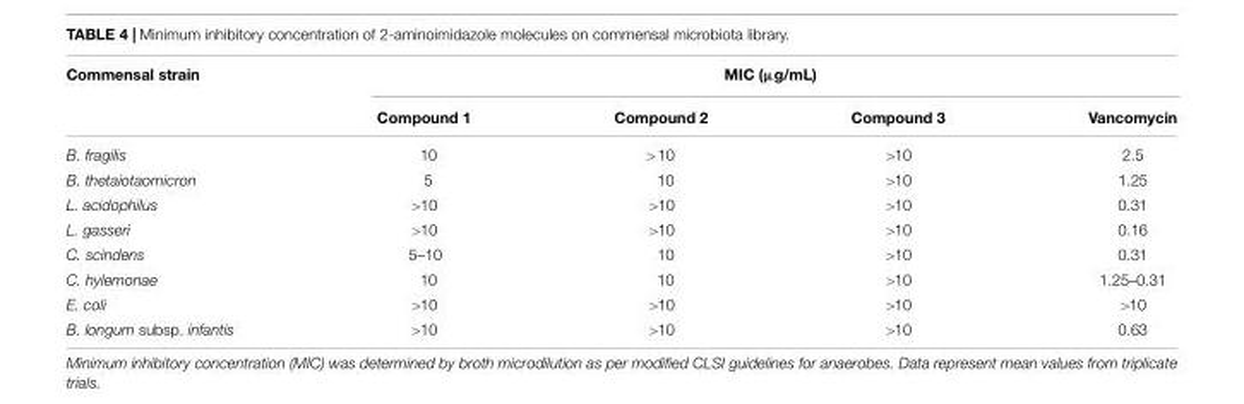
<table><thead><tr><td rowspan="2">Commensal strain</td><td colspan="4">MIC (µg/mL)</td></tr><tr><td>Compound 1</td><td>Compound 2</td><td>Compound 3</td><td>Vancomycin</td></tr></thead><tbody><tr><td>B. fragilis</td><td>10</td><td>&gt;10</td><td>&gt;10</td><td>2.5</td></tr><tr><td>B. thetaiotaomicron</td><td>5</td><td>10</td><td>&gt;10</td><td>1.25</td></tr><tr><td>L. acidophilus</td><td>&gt;10</td><td>&gt;10</td><td>&gt;10</td><td>0.31</td></tr><tr><td>L. gasseri</td><td>&gt;10</td><td>&gt;10</td><td>&gt;10</td><td>0.16</td></tr><tr><td>C. scindens</td><td>5–10</td><td>10</td><td>&gt;10</td><td>0.31</td></tr><tr><td>C. hylemonae</td><td>10</td><td>10</td><td>&gt;10</td><td>1.25–0.31</td></tr><tr><td>E. coli</td><td>&gt;10</td><td>&gt;10</td><td>&gt;10</td><td>&gt;10</td></tr><tr><td>B. longum subsp. infantis</td><td>&gt;10</td><td>&gt;10</td><td>&gt;10</td><td>0.63</td></tr></tbody></table>